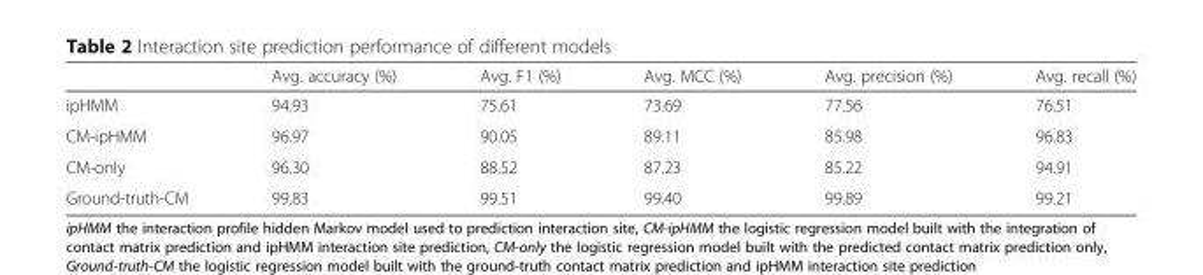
<table><thead><tr><td></td><td>Avg. accuracy (%)</td><td>Avg. F1 (%)</td><td>Avg. MCC (%)</td><td>Avg. precision (%)</td><td>Avg. recall (%)</td></tr></thead><tbody><tr><td>ipHMM</td><td>94.93</td><td>75.61</td><td>73.69</td><td>77.56</td><td>76.51</td></tr><tr><td>CM-ipHMM</td><td>96.97</td><td>90.05</td><td>89.11</td><td>85.98</td><td>96.83</td></tr><tr><td>CM-only</td><td>96.30</td><td>88.52</td><td>87.23</td><td>85.22</td><td>94.91</td></tr><tr><td>Ground-truth-CM</td><td>99.83</td><td>99.51</td><td>99.40</td><td>99.89</td><td>99.21</td></tr></tbody></table>